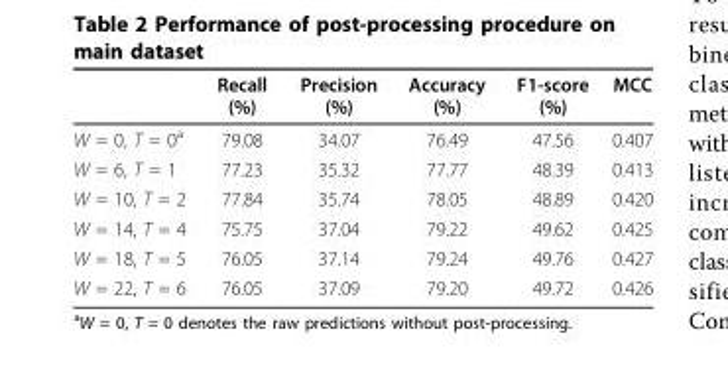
<table><thead><tr><td></td><td>Recall (%)</td><td>Precision (%)</td><td>Accuracy (%)</td><td>F1-score (%)</td><td>MCC</td></tr></thead><tbody><tr><td>W = 0, T = 0<sup>a</sup></td><td>79.08</td><td>34.07</td><td>76.49</td><td>47.56</td><td>0.407</td></tr><tr><td>W = 6, T = 1</td><td>77.23</td><td>35.32</td><td>77.77</td><td>48.39</td><td>0.413</td></tr><tr><td>W = 10, T = 2</td><td>77.84</td><td>35.74</td><td>78.05</td><td>48.89</td><td>0.420</td></tr><tr><td>W = 14, T = 4</td><td>75.75</td><td>37.04</td><td>79.22</td><td>49.62</td><td>0.425</td></tr><tr><td>W = 18, T = 5</td><td>76.05</td><td>37.14</td><td>79.24</td><td>49.76</td><td>0.427</td></tr><tr><td>W = 22, T = 6</td><td>76.05</td><td>37.09</td><td>79.20</td><td>49.72</td><td>0.426</td></tr></tbody></table>